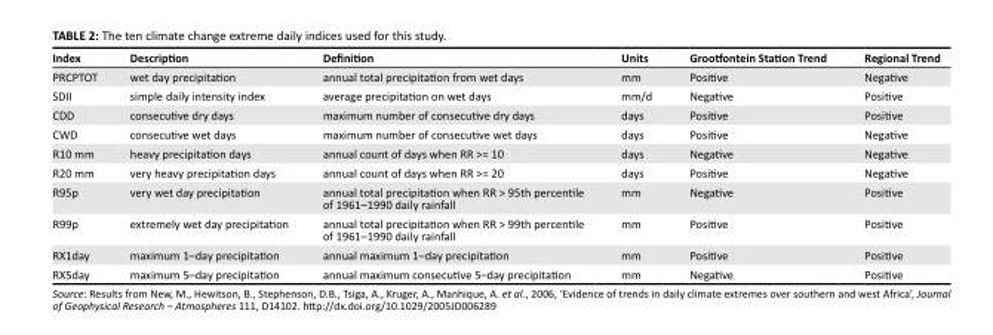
<table><thead><tr><td>Index</td><td>Description</td><td>Definition</td><td>Units</td><td>Grootfontein Station Trend</td><td>Regional Trend</td></tr></thead><tbody><tr><td>PRCPTOT</td><td>wet day precipitation</td><td>annual total precipitation from wet days</td><td>mm</td><td>Positive</td><td>Negative</td></tr><tr><td>SDII</td><td>simple daily intensity index</td><td>average precipitation on wet days</td><td>mm/d</td><td>Negative</td><td>Positive</td></tr><tr><td>CDD</td><td>consecutive dry days</td><td>maximum number of consecutive dry days</td><td>days</td><td>Positive</td><td>Positive</td></tr><tr><td>CWD</td><td>consecutive wet days</td><td>maximum number of consecutive wet days</td><td>days</td><td>Positive</td><td>Negative</td></tr><tr><td>R10 mm</td><td>heavy precipitation days</td><td>annual count of days when RR &gt;= 10</td><td>days</td><td>Negative</td><td>Negative</td></tr><tr><td>R20 mm</td><td>very heavy precipitation days</td><td>annual count of days when RR &gt;= 20</td><td>days</td><td>Positive</td><td>Negative</td></tr><tr><td>R95p</td><td>very wet day precipitation</td><td>annual total precipitation when RR &gt; 95th percentile of 1961–1990 daily rainfall</td><td>mm</td><td>Negative</td><td>Positive</td></tr><tr><td>R99p</td><td>extremely wet day precipitation</td><td>annual total precipitation when RR &gt; 99th percentile of 1961–1990 daily rainfall</td><td>mm</td><td>Positive</td><td>Positive</td></tr><tr><td>RX1day</td><td>maximum 1–day precipitation</td><td>annual maximum 1–day precipitation</td><td>mm</td><td>Positive</td><td>Positive</td></tr><tr><td>RX5day</td><td>maximum 5–day precipitation</td><td>annual maximum consecutive 5–day precipitation</td><td>mm</td><td>Negative</td><td>Positive</td></tr></tbody></table>